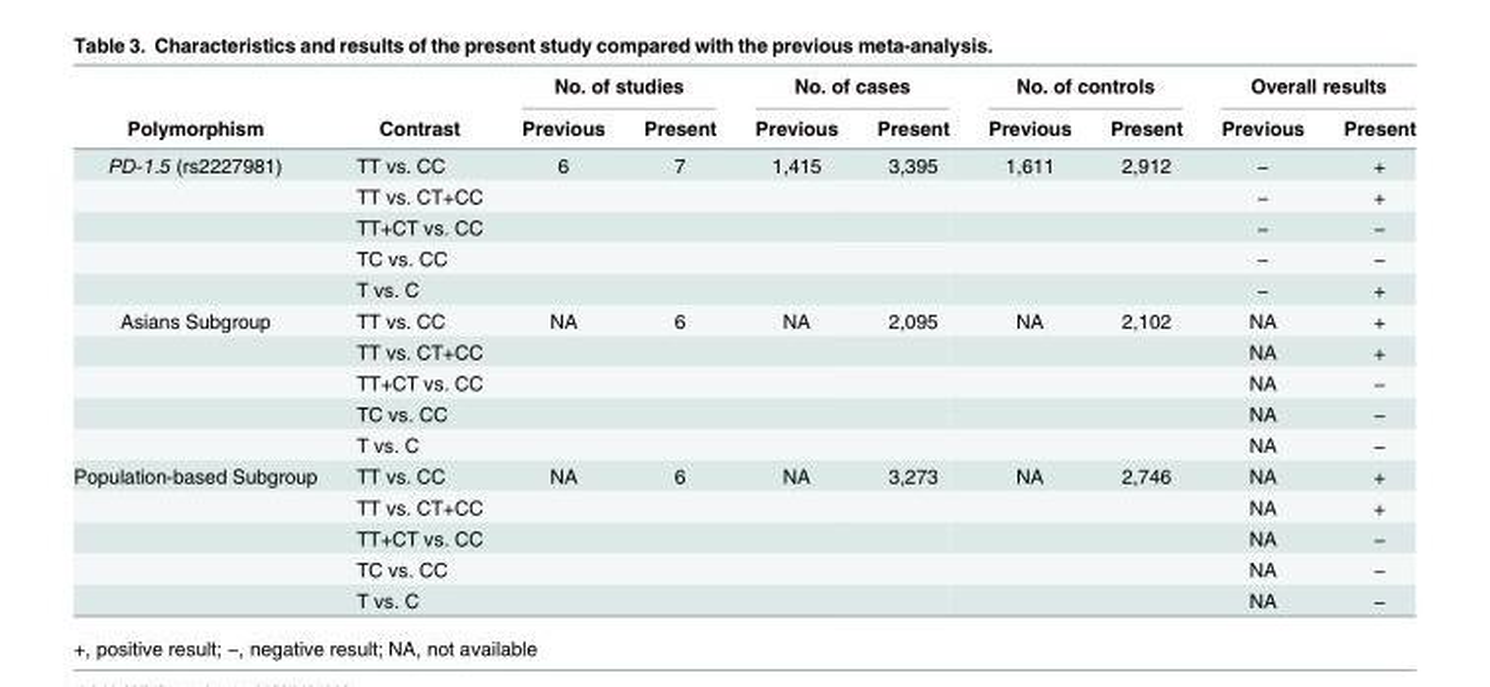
<table><thead><tr><td rowspan="2">Polymorphism</td><td rowspan="2">Contrast</td><td colspan="2">No. of studies</td><td colspan="2">No. of cases</td><td colspan="2">No. of controls</td><td colspan="2">Overall results</td></tr><tr><td>Previous</td><td>Present</td><td>Previous</td><td>Present</td><td>Previous</td><td>Present</td><td>Previous</td><td>Present</td></tr></thead><tbody><tr><td rowspan="5">PD-1.5 (rs2227981)</td><td>TT vs. CC</td><td>6</td><td>7</td><td>1,415</td><td>3,395</td><td>1,611</td><td>2,912</td><td>−</td><td>+</td></tr><tr><td>TT vs. CT+CC</td><td></td><td></td><td></td><td></td><td></td><td></td><td>−</td><td>+</td></tr><tr><td>TT+CT vs. CC</td><td></td><td></td><td></td><td></td><td></td><td></td><td>−</td><td>−</td></tr><tr><td>TC vs. CC</td><td></td><td></td><td></td><td></td><td></td><td></td><td>−</td><td>−</td></tr><tr><td>T vs. C</td><td></td><td></td><td></td><td></td><td></td><td></td><td>−</td><td>+</td></tr><tr><td rowspan="5">Asians Subgroup</td><td>TT vs. CC</td><td>NA</td><td>6</td><td>NA</td><td>2,095</td><td>NA</td><td>2,102</td><td>NA</td><td>+</td></tr><tr><td>TT vs. CT+CC</td><td></td><td></td><td></td><td></td><td></td><td></td><td>NA</td><td>+</td></tr><tr><td>TT+CT vs. CC</td><td></td><td></td><td></td><td></td><td></td><td></td><td>NA</td><td>−</td></tr><tr><td>TC vs. CC</td><td></td><td></td><td></td><td></td><td></td><td></td><td>NA</td><td>−</td></tr><tr><td>T vs. C</td><td></td><td></td><td></td><td></td><td></td><td></td><td>NA</td><td>−</td></tr><tr><td rowspan="5">Population-based Subgroup</td><td>TT vs. CC</td><td>NA</td><td>6</td><td>NA</td><td>3,273</td><td>NA</td><td>2,746</td><td>NA</td><td>+</td></tr><tr><td>TT vs. CT+CC</td><td></td><td></td><td></td><td></td><td></td><td></td><td>NA</td><td>+</td></tr><tr><td>TT+CT vs. CC</td><td></td><td></td><td></td><td></td><td></td><td></td><td>NA</td><td>−</td></tr><tr><td>TC vs. CC</td><td></td><td></td><td></td><td></td><td></td><td></td><td>NA</td><td>−</td></tr><tr><td>T vs. C</td><td></td><td></td><td></td><td></td><td></td><td></td><td>NA</td><td>−</td></tr></tbody></table>